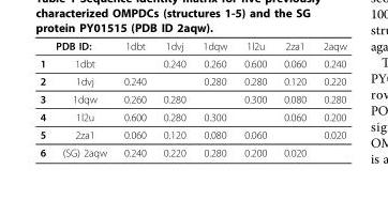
<table><thead><tr><td colspan="2">PDB ID:</td><td rowspan="2">1dbt</td><td rowspan="2">1dvj 0.240</td><td rowspan="2">1dqw 0.260</td><td rowspan="2">1l2u 0.600</td><td rowspan="2">2za1 0.060</td><td rowspan="2">2aqw 0.240</td></tr><tr><td>1</td><td>1dbt</td></tr></thead><tbody><tr><td>2</td><td>1dvj</td><td>0.240</td><td></td><td>0.280</td><td>0.280</td><td>0.120</td><td>0.220</td></tr><tr><td>3</td><td>1dqw</td><td>0.260</td><td>0.280</td><td></td><td>0.300</td><td>0.080</td><td>0.280</td></tr><tr><td>4</td><td>1l2u</td><td>0.600</td><td>0.280</td><td>0.300</td><td></td><td>0.060</td><td>0.200</td></tr><tr><td>5</td><td>2za1</td><td>0.060</td><td>0.120</td><td>0.080</td><td>0.060</td><td></td><td>0.020</td></tr><tr><td>6</td><td>(SG) 2aqw</td><td>0.240</td><td>0.220</td><td>0.280</td><td>0.200</td><td>0.020</td><td></td></tr></tbody></table>